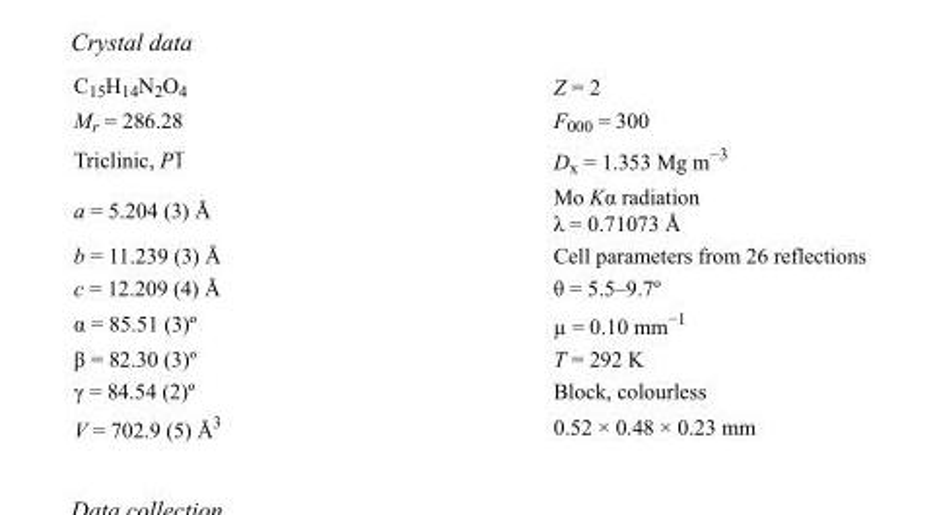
<table><tbody><tr><td>C<sub>15</sub>H<sub>14</sub>N<sub>2</sub>O<sub>4</sub></td><td>Z = 2</td></tr><tr><td>M<sub>r</sub> = 286.28</td><td>F000 = 300</td></tr><tr><td>Triclinic, P1</td><td>D<sub>x</sub> = 1.353 Mg m<sup>−3</sup></td></tr><tr><td>a = 5.204 (3) Å</td><td>Mo Kα radiation λ = 0.71073 Å</td></tr><tr><td>b = 11.239 (3) Å</td><td>Cell parameters from 26 reflections</td></tr><tr><td>c = 12.209 (4) Å</td><td>θ = 5.5–9.7º</td></tr><tr><td>α = 85.51 (3)º</td><td>µ = 0.10 mm<sup>−1</sup></td></tr><tr><td>β = 82.30 (3)º</td><td>T = 292 K</td></tr><tr><td>γ = 84.54 (2)º</td><td>Block, colourless</td></tr><tr><td>V = 702.9 (5) Å<sup>3</sup></td><td>0.52 × 0.48 × 0.23 mm</td></tr></tbody></table>